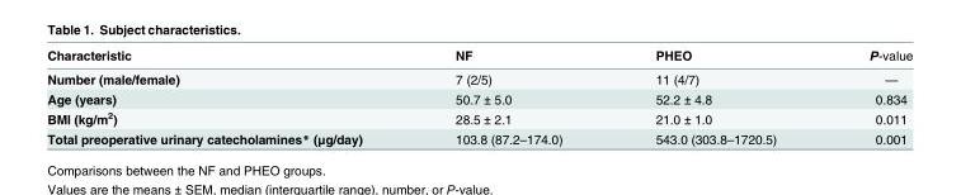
<table><thead><tr><td>Characteristic</td><td>NF</td><td>PHEO</td><td>P-value</td></tr></thead><tbody><tr><td>Number (male/female)</td><td>7 (2/5)</td><td>11 (4/7)</td><td>—</td></tr><tr><td>Age (years)</td><td>50.7 ± 5.0</td><td>52.2 ± 4.8</td><td>0.834</td></tr><tr><td>BMI (kg/m<sup>2</sup>)</td><td>28.5 ± 2.1</td><td>21.0 ± 1.0</td><td>0.011</td></tr><tr><td>Total preoperative urinary catecholamines* (μg/day)</td><td>103.8 (87.2–174.0)</td><td>543.0 (303.8–1720.5)</td><td>0.001</td></tr></tbody></table>